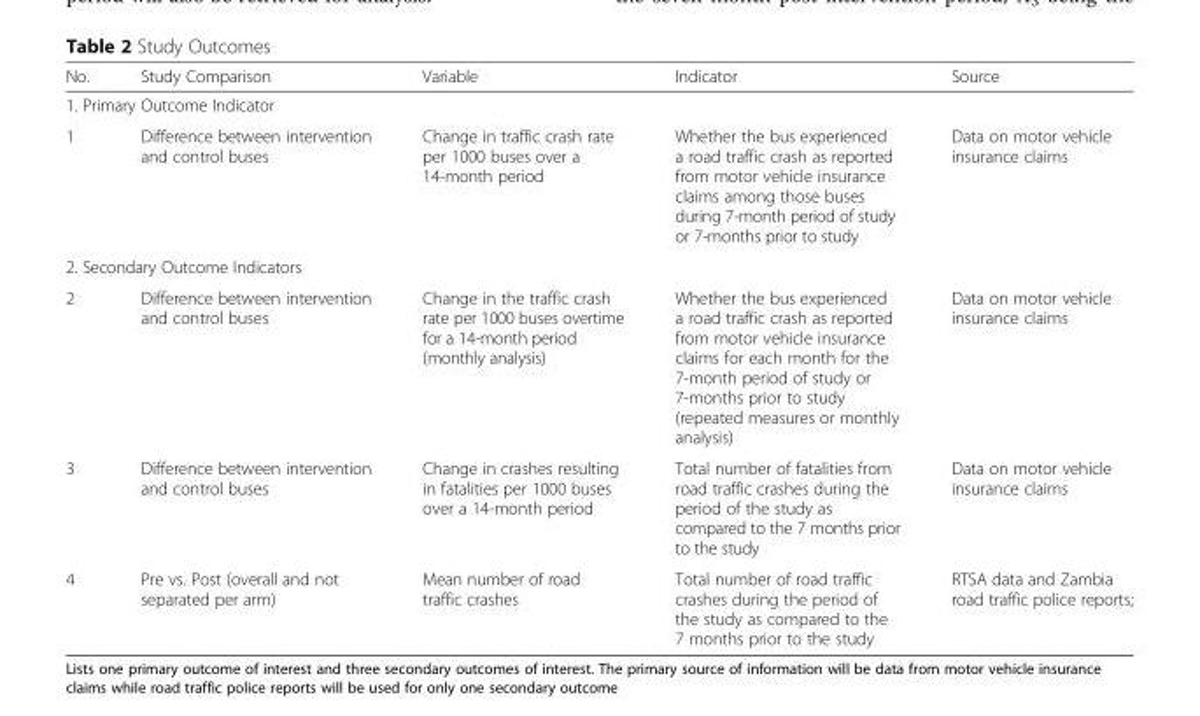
<table><thead><tr><td>No.</td><td>Study Comparison</td><td>Variable</td><td>Indicator</td><td>Source</td></tr></thead><tbody><tr><td colspan="5">1. Primary Outcome Indicator</td></tr><tr><td>1</td><td>Difference between intervention and control buses</td><td>Change in traffic crash rate per 1000 buses over a 14-month period</td><td>Whether the bus experienced a road traffic crash as reported from motor vehicle insurance claims among those buses during 7-month period of study or 7-months prior to study</td><td>Data on motor vehicle insurance claims</td></tr><tr><td colspan="5">2. Secondary Outcome Indicators</td></tr><tr><td>2</td><td>Difference between intervention and control buses</td><td>Change in the traffic crash rate per 1000 buses overtime for a 14-month period (monthly analysis)</td><td>Whether the bus experienced a road traffic crash as reported from motor vehicle insurance claims for each month for the 7-month period of study or 7-months prior to study (repeated measures or monthly analysis)</td><td>Data on motor vehicle insurance claims</td></tr><tr><td>3</td><td>Difference between intervention and control buses</td><td>Change in crashes resulting in fatalities per 1000 buses over a 14-month period</td><td>Total number of fatalities from road traffic crashes during the period of the study as compared to the 7 months prior to the study</td><td>Data on motor vehicle insurance claims</td></tr><tr><td>4</td><td>Pre vs. Post (overall and not separated per arm)</td><td>Mean number of road traffic crashes</td><td>Total number of road traffic crashes during the period of the study as compared to the 7 months prior to the study</td><td>RTSA data and Zambia road traffic police reports;</td></tr></tbody></table>